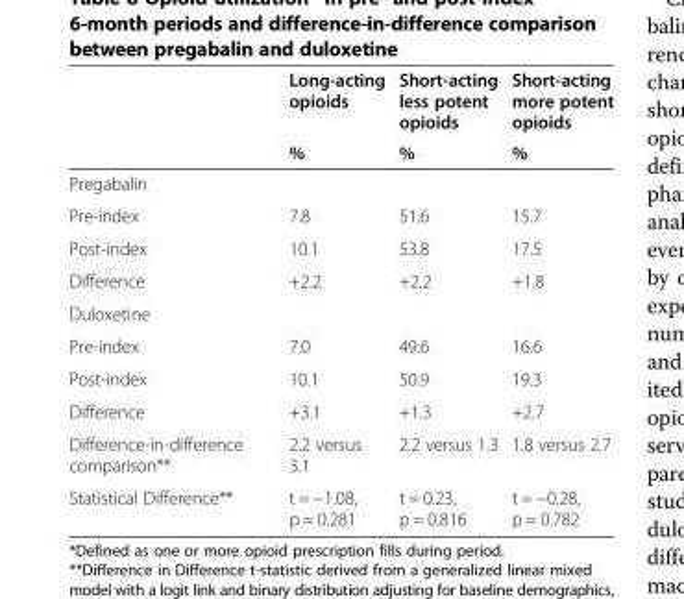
<table><thead><tr><td rowspan="2"></td><td rowspan="2">Long-acting opioids %</td><td rowspan="2">Short-acting less potent opioids %</td><td rowspan="2">Short-acting more potent opioids %</td></tr><tr></tr></thead><tbody><tr><td colspan="4">Pregabalin</td></tr><tr><td>Pre-index</td><td>7.8</td><td>51.6</td><td>15.7</td></tr><tr><td>Post-index</td><td>10.1</td><td>53.8</td><td>17.5</td></tr><tr><td>Difference</td><td>+2.2</td><td>+2.2</td><td>+1.8</td></tr><tr><td colspan="4">Duloxetine</td></tr><tr><td>Pre-index</td><td>7.0</td><td>49.6</td><td>16.6</td></tr><tr><td>Post-index</td><td>10.1</td><td>50.9</td><td>19.3</td></tr><tr><td>Difference</td><td>+3.1</td><td>+1.3</td><td>+2.7</td></tr><tr><td>Difference-in-difference comparison**</td><td>2.2 versus 3.1</td><td>2.2 versus 1.3</td><td>1.8 versus 2.7</td></tr><tr><td>Statistical Difference**</td><td>t = −1.08, p = 0.281</td><td>t = 0.23, p = 0.816</td><td>t = −0.28, p = 0.782</td></tr></tbody></table>